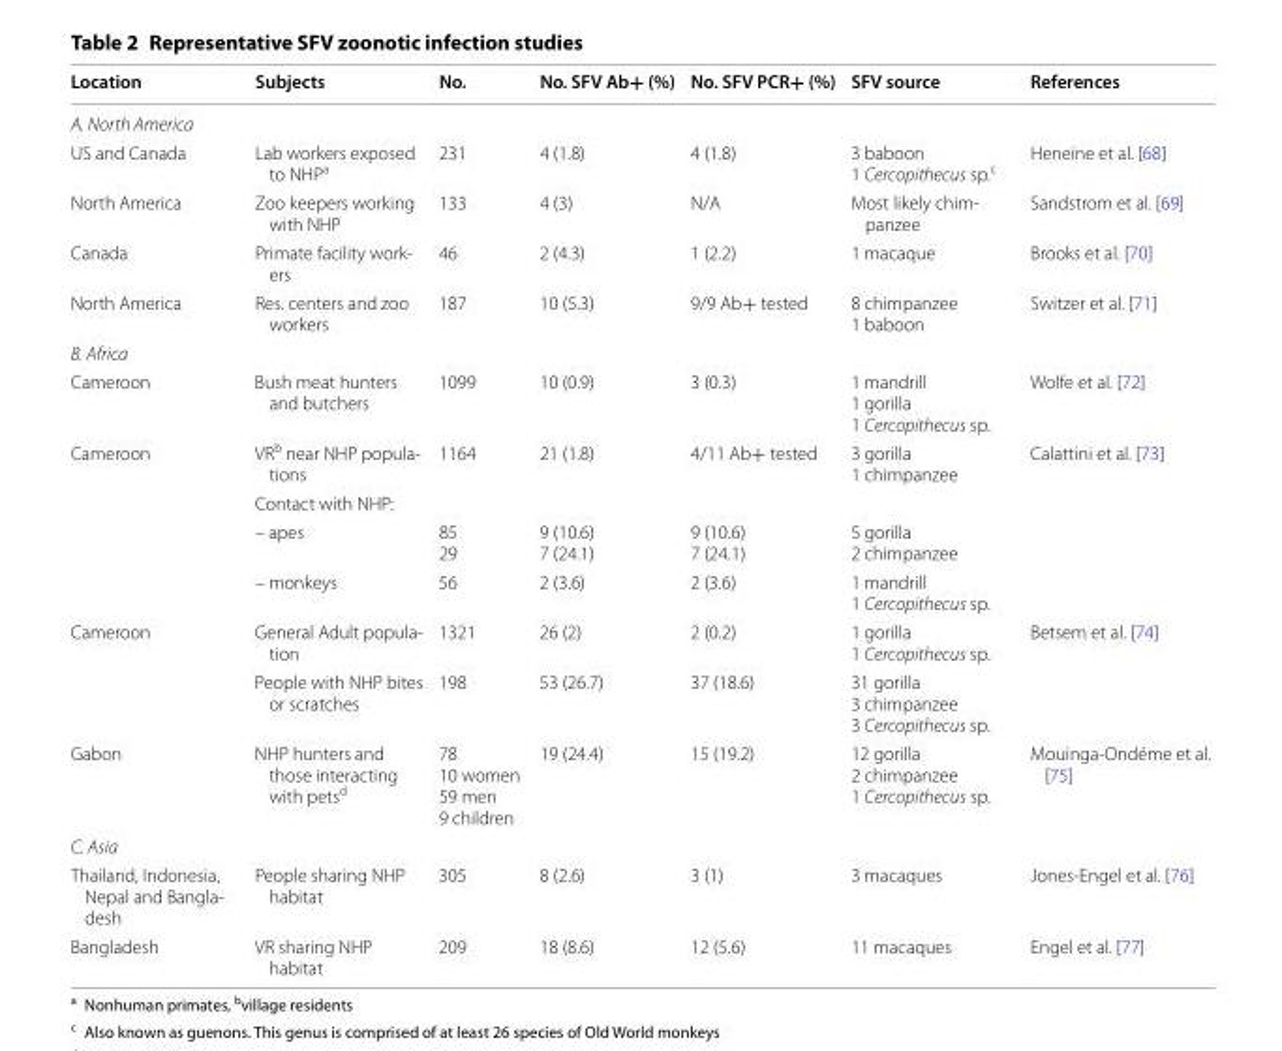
<table><thead><tr><td>Location</td><td>Subjects</td><td>No.</td><td>No. SFV Ab+ (%)</td><td>No. SFV PCR+ (%)</td><td>SFV source</td><td>References</td></tr></thead><tbody><tr><td colspan="7">A. North America</td></tr><tr><td>US and Canada</td><td>Lab workers exposed to NHP<sup>a</sup></td><td>231</td><td>4 (1.8)</td><td>4 (1.8)</td><td>3 baboon 1 Cercopithecus sp.<sup>c</sup></td><td>Heneine et al. [68]</td></tr><tr><td>North America</td><td>Zoo keepers working with NHP</td><td>133</td><td>4 (3)</td><td>N/A</td><td>Most likely chim‑ panzee</td><td>Sandstrom et al. [69]</td></tr><tr><td>Canada</td><td>Primate facility work‑ ers</td><td>46</td><td>2 (4.3)</td><td>1 (2.2)</td><td>1 macaque</td><td>Brooks et al. [70]</td></tr><tr><td>North America</td><td>Res. centers and zoo workers</td><td>187</td><td>10 (5.3)</td><td>9/9 Ab+ tested</td><td>8 chimpanzee 1 baboon</td><td>Switzer et al. [71]</td></tr><tr><td colspan="7">B. Africa</td></tr><tr><td>Cameroon</td><td>Bush meat hunters and butchers</td><td>1099</td><td>10 (0.9)</td><td>3 (0.3)</td><td>1 mandrill 1 gorilla 1 Cercopithecus sp.</td><td>Wolfe et al. [72]</td></tr><tr><td rowspan="4">Cameroon</td><td>VRb near NHP popula‑ tions</td><td>1164</td><td>21 (1.8)</td><td>4/11 Ab+ tested</td><td>3 gorilla 1 chimpanzee</td><td rowspan="4">Calattini et al. [73]</td></tr><tr><td>Contact with NHP:</td><td></td><td></td><td></td><td></td></tr><tr><td>– apes</td><td>85 29</td><td>9 (10.6) 7 (24.1)</td><td>9 (10.6) 7 (24.1)</td><td>5 gorilla 2 chimpanzee</td></tr><tr><td>– monkeys</td><td>56</td><td>2 (3.6)</td><td>2 (3.6)</td><td>1 mandrill 1 Cercopithecus sp.</td></tr><tr><td rowspan="2">Cameroon</td><td>General Adult popula‑ tion</td><td>1321</td><td>26 (2)</td><td>2 (0.2)</td><td>1 gorilla 1 Cercopithecus sp.</td><td rowspan="2">Betsem et al. [74]</td></tr><tr><td>People with NHP bites or scratches</td><td>198</td><td>53 (26.7)</td><td>37 (18.6)</td><td>31 gorilla 3 chimpanzee 3 Cercopithecus sp.</td></tr><tr><td>Gabon</td><td>NHP hunters and those interacting with pets<sup>d</sup></td><td>78 10 women 59 men 9 children</td><td>19 (24.4)</td><td>15 (19.2)</td><td>12 gorilla 2 chimpanzee 1 Cercopithecus sp.</td><td>Mouinga‑Ondéme et al. [75]</td></tr><tr><td colspan="7">C. Asia</td></tr><tr><td>Thailand, Indonesia, Nepal and Bangla‑ desh</td><td>People sharing NHP habitat</td><td>305</td><td>8 (2.6)</td><td>3 (1)</td><td>3 macaques</td><td>Jones‑Engel et al. [76]</td></tr><tr><td>Bangladesh</td><td>VR sharing NHP habitat</td><td>209</td><td>18 (8.6)</td><td>12 (5.6)</td><td>11 macaques</td><td>Engel et al. [77]</td></tr></tbody></table>